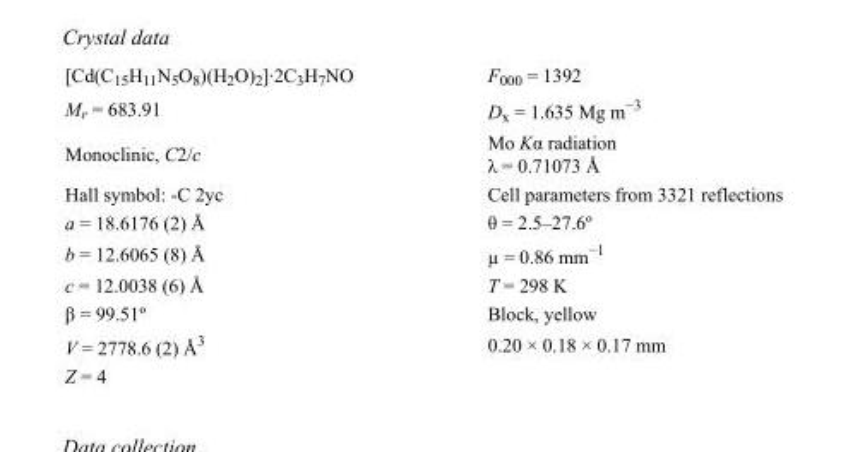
<table><tbody><tr><td>[Cd(C<sub>15</sub>H<sub>11</sub>N<sub>5</sub>O<sub>8</sub>)(H<sub>2</sub>O)<sub>2</sub>]·2C<sub>3</sub>H<sub>7</sub>NO</td><td>F000 = 1392</td></tr><tr><td>M<sub>r</sub> = 683.91</td><td>D<sub>x</sub> = 1.635 Mg m<sup>−3</sup></td></tr><tr><td>Monoclinic, C2/c</td><td>Mo Kα radiation λ = 0.71073 Å</td></tr><tr><td>Hall symbol: -C 2yc</td><td>Cell parameters from 3321 reflections</td></tr><tr><td>a = 18.6176 (2) Å</td><td>θ = 2.5–27.6º</td></tr><tr><td>b = 12.6065 (8) Å</td><td>µ = 0.86 mm<sup>−1</sup></td></tr><tr><td>c = 12.0038 (6) Å</td><td>T = 298 K</td></tr><tr><td>β = 99.51º</td><td>Block, yellow</td></tr><tr><td>V = 2778.6 (2) Å<sup>3</sup></td><td>0.20 × 0.18 × 0.17 mm</td></tr><tr><td>Z = 4</td><td></td></tr></tbody></table>